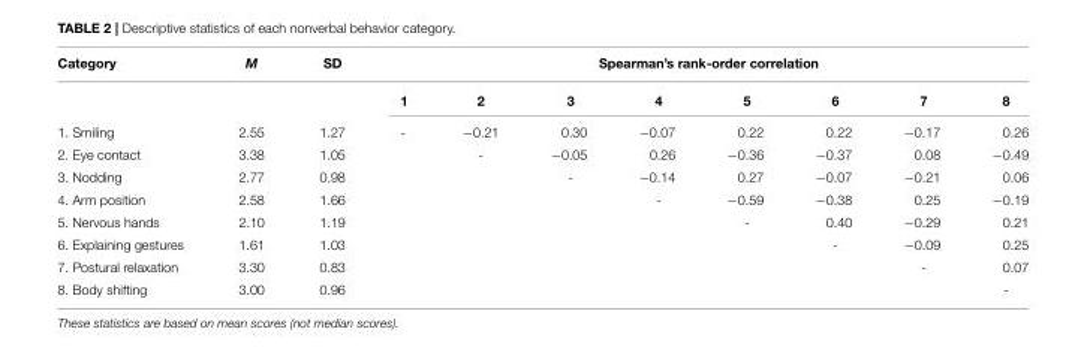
<table><thead><tr><td rowspan="2">Category</td><td rowspan="2">M</td><td rowspan="2">SD</td><td colspan="8">Spearman’s rank-order correlation</td></tr><tr><td>1</td><td>2</td><td>3</td><td>4</td><td>5</td><td>6</td><td>7</td><td>8</td></tr></thead><tbody><tr><td>1. Smiling</td><td>2.55</td><td>1.27</td><td>-</td><td>−0.21</td><td>0.30</td><td>−0.07</td><td>0.22</td><td>0.22</td><td>−0.17</td><td>0.26</td></tr><tr><td>2. Eye contact</td><td>3.38</td><td>1.05</td><td></td><td>-</td><td>−0.05</td><td>0.26</td><td>−0.36</td><td>−0.37</td><td>0.08</td><td>−0.49</td></tr><tr><td>3. Nodding</td><td>2.77</td><td>0.98</td><td></td><td></td><td>-</td><td>−0.14</td><td>0.27</td><td>−0.07</td><td>−0.21</td><td>0.06</td></tr><tr><td>4. Arm position</td><td>2.58</td><td>1.66</td><td></td><td></td><td></td><td>-</td><td>−0.59</td><td>−0.38</td><td>0.25</td><td>−0.19</td></tr><tr><td>5. Nervous hands</td><td>2.10</td><td>1.19</td><td></td><td></td><td></td><td></td><td>-</td><td>0.40</td><td>−0.29</td><td>0.21</td></tr><tr><td>6. Explaining gestures</td><td>1.61</td><td>1.03</td><td></td><td></td><td></td><td></td><td></td><td>-</td><td>−0.09</td><td>0.25</td></tr><tr><td>7. Postural relaxation</td><td>3.30</td><td>0.83</td><td></td><td></td><td></td><td></td><td></td><td></td><td>-</td><td>0.07</td></tr><tr><td>8. Body shifting</td><td>3.00</td><td>0.96</td><td></td><td></td><td></td><td></td><td></td><td></td><td></td><td>-</td></tr></tbody></table>